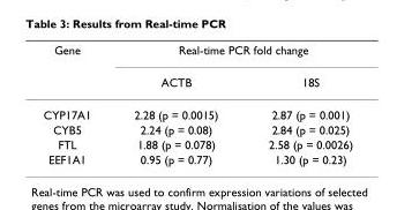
<table><thead><tr><td rowspan="2">Gene</td><td colspan="2">Real-time PCR fold change</td></tr><tr><td>ACTB</td><td>18S</td></tr></thead><tbody><tr><td>CYP17A1</td><td>2.28 (p = 0.0015)</td><td>2.87 (p = 0.001)</td></tr><tr><td>CYB5</td><td>2.24 (p = 0.08)</td><td>2.84 (p = 0.025)</td></tr><tr><td>FTL</td><td>1.88 (p = 0.078)</td><td>2.58 (p = 0.0026)</td></tr><tr><td>EEF1A1</td><td>0.95 (p = 0.77)</td><td>1.30 (p = 0.23)</td></tr></tbody></table>